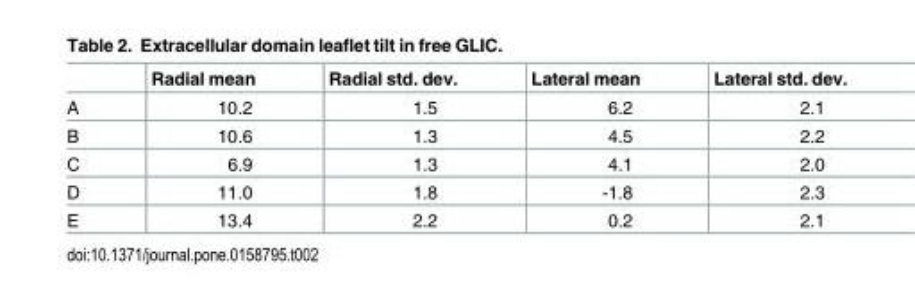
<table><thead><tr><td></td><td>Radial mean</td><td>Radial std. dev.</td><td>Lateral mean</td><td>Lateral std. dev.</td></tr></thead><tbody><tr><td>A</td><td>10.2</td><td>1.5</td><td>6.2</td><td>2.1</td></tr><tr><td>B</td><td>10.6</td><td>1.3</td><td>4.5</td><td>2.2</td></tr><tr><td>C</td><td>6.9</td><td>1.3</td><td>4.1</td><td>2.0</td></tr><tr><td>D</td><td>11.0</td><td>1.8</td><td>-1.8</td><td>2.3</td></tr><tr><td>E</td><td>13.4</td><td>2.2</td><td>0.2</td><td>2.1</td></tr></tbody></table>